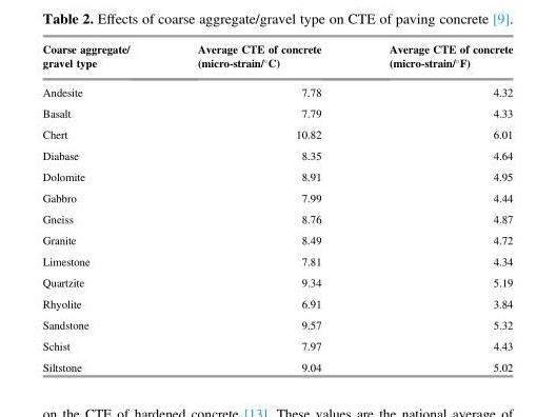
<table><thead><tr><td>Coarse aggregate/ gravel type</td><td>Average CTE of concrete (micro-strain/°C)</td><td>Average CTE of concrete (micro-strain/°F)</td></tr></thead><tbody><tr><td>Andesite</td><td>7.78</td><td>4.32</td></tr><tr><td>Basalt</td><td>7.79</td><td>4.33</td></tr><tr><td>Chert</td><td>10.82</td><td>6.01</td></tr><tr><td>Diabase</td><td>8.35</td><td>4.64</td></tr><tr><td>Dolomite</td><td>8.91</td><td>4.95</td></tr><tr><td>Gabbro</td><td>7.99</td><td>4.44</td></tr><tr><td>Gneiss</td><td>8.76</td><td>4.87</td></tr><tr><td>Granite</td><td>8.49</td><td>4.72</td></tr><tr><td>Limestone</td><td>7.81</td><td>4.34</td></tr><tr><td>Quartzite</td><td>9.34</td><td>5.19</td></tr><tr><td>Rhyolite</td><td>6.91</td><td>3.84</td></tr><tr><td>Sandstone</td><td>9.57</td><td>5.32</td></tr><tr><td>Schist</td><td>7.97</td><td>4.43</td></tr><tr><td>Siltstone</td><td>9.04</td><td>5.02</td></tr></tbody></table>